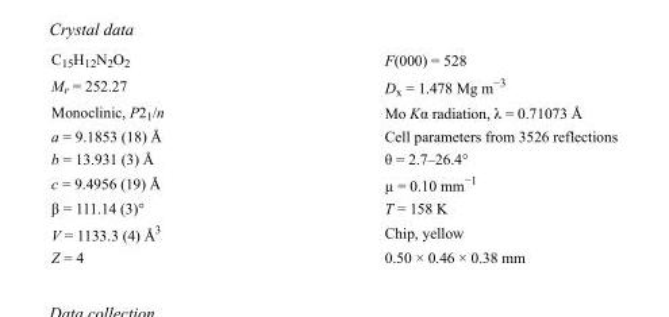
<table><tbody><tr><td>C<sub>15</sub>H<sub>12</sub>N<sub>2</sub>O<sub>2</sub></td><td>F(000) = 528</td></tr><tr><td>M<sub>r</sub> = 252.27</td><td>D<sub>x</sub> = 1.478 Mg m<sup>−3</sup></td></tr><tr><td>Monoclinic, P2<sub>1</sub>/n</td><td>Mo Kα radiation, λ = 0.71073 Å</td></tr><tr><td>a = 9.1853 (18) Å</td><td>Cell parameters from 3526 reflections</td></tr><tr><td>b = 13.931 (3) Å</td><td>θ = 2.7–26.4°</td></tr><tr><td>c = 9.4956 (19) Å</td><td>µ = 0.10 mm<sup>−1</sup></td></tr><tr><td>β = 111.14 (3)°</td><td>T = 158 K</td></tr><tr><td>V = 1133.3 (4) Å<sup>3</sup></td><td>Chip, yellow</td></tr><tr><td>Z = 4</td><td>0.50 × 0.46 × 0.38 mm</td></tr></tbody></table>